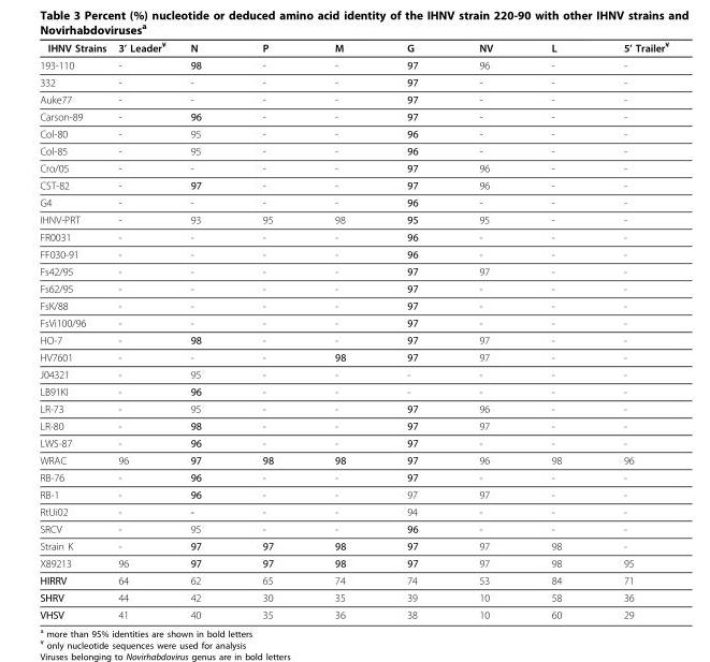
<table><thead><tr><td>IHNV Strains</td><td>3’ Leader<sup>¥</sup></td><td>N</td><td>P</td><td>M</td><td>G</td><td>NV</td><td>L</td><td>5’ Trailer<sup>¥</sup></td></tr></thead><tbody><tr><td>193-110</td><td>-</td><td>98</td><td>-</td><td>-</td><td>97</td><td>96</td><td>-</td><td>-</td></tr><tr><td>332</td><td>-</td><td>-</td><td>-</td><td>-</td><td>97</td><td>-</td><td>-</td><td>-</td></tr><tr><td>Auke77</td><td>-</td><td>-</td><td>-</td><td>-</td><td>97</td><td>-</td><td>-</td><td>-</td></tr><tr><td>Carson-89</td><td>-</td><td>96</td><td>-</td><td>-</td><td>97</td><td>-</td><td>-</td><td>-</td></tr><tr><td>Col-80</td><td>-</td><td>95</td><td>-</td><td>-</td><td>96</td><td>-</td><td>-</td><td>-</td></tr><tr><td>Col-85</td><td>-</td><td>95</td><td>-</td><td>-</td><td>96</td><td>-</td><td>-</td><td>-</td></tr><tr><td>Cro/05</td><td>-</td><td>-</td><td>-</td><td>-</td><td>97</td><td>96</td><td>-</td><td>-</td></tr><tr><td>CST-82</td><td>-</td><td>97</td><td>-</td><td>-</td><td>97</td><td>96</td><td>-</td><td>-</td></tr><tr><td>G4</td><td>-</td><td>-</td><td>-</td><td>-</td><td>96</td><td>-</td><td>-</td><td>-</td></tr><tr><td>IHNV-PRT</td><td>-</td><td>93</td><td>95</td><td>98</td><td>95</td><td>95</td><td>-</td><td>-</td></tr><tr><td>FR0031</td><td>-</td><td>-</td><td>-</td><td>-</td><td>96</td><td>-</td><td>-</td><td>-</td></tr><tr><td>FF030-91</td><td>-</td><td>-</td><td>-</td><td>-</td><td>96</td><td>-</td><td>-</td><td>-</td></tr><tr><td>Fs42/95</td><td>-</td><td>-</td><td>-</td><td>-</td><td>97</td><td>97</td><td>-</td><td>-</td></tr><tr><td>Fs62/95</td><td>-</td><td>-</td><td>-</td><td>-</td><td>97</td><td>-</td><td>-</td><td>-</td></tr><tr><td>FsK/88</td><td>-</td><td>-</td><td>-</td><td>-</td><td>97</td><td>-</td><td>-</td><td>-</td></tr><tr><td>FsVi100/96</td><td>-</td><td>-</td><td>-</td><td>-</td><td>97</td><td>-</td><td>-</td><td>-</td></tr><tr><td>HO-7</td><td>-</td><td>98</td><td>-</td><td>-</td><td>97</td><td>97</td><td>-</td><td>-</td></tr><tr><td>HV7601</td><td>-</td><td>-</td><td>-</td><td>98</td><td>97</td><td>97</td><td>-</td><td>-</td></tr><tr><td>J04321</td><td>-</td><td>95</td><td>-</td><td>-</td><td>-</td><td>-</td><td>-</td><td>-</td></tr><tr><td>LB91KI</td><td>-</td><td>96</td><td>-</td><td>-</td><td>-</td><td>-</td><td>-</td><td>-</td></tr><tr><td>LR-73</td><td>-</td><td>95</td><td>-</td><td>-</td><td>97</td><td>96</td><td>-</td><td>-</td></tr><tr><td>LR-80</td><td>-</td><td>98</td><td>-</td><td>-</td><td>97</td><td>97</td><td>-</td><td>-</td></tr><tr><td>LWS-87</td><td>-</td><td>96</td><td>-</td><td>-</td><td>97</td><td>-</td><td>-</td><td>-</td></tr><tr><td>WRAC</td><td>96</td><td>97</td><td>98</td><td>98</td><td>97</td><td>96</td><td>98</td><td>96</td></tr><tr><td>RB-76</td><td>-</td><td>96</td><td>-</td><td>-</td><td>97</td><td>-</td><td>-</td><td>-</td></tr><tr><td>RB-1</td><td>-</td><td>96</td><td>-</td><td>-</td><td>97</td><td>97</td><td>-</td><td>-</td></tr><tr><td>RtUi02</td><td>-</td><td>-</td><td>-</td><td>-</td><td>94</td><td>-</td><td>-</td><td>-</td></tr><tr><td>SRCV</td><td>-</td><td>95</td><td>-</td><td>-</td><td>96</td><td>-</td><td>-</td><td>-</td></tr><tr><td>Strain K</td><td>-</td><td>97</td><td>97</td><td>98</td><td>97</td><td>97</td><td>98</td><td>-</td></tr><tr><td>X89213</td><td>96</td><td>97</td><td>97</td><td>98</td><td>97</td><td>97</td><td>98</td><td>95</td></tr><tr><td>HIRRV</td><td>64</td><td>62</td><td>65</td><td>74</td><td>74</td><td>53</td><td>84</td><td>71</td></tr><tr><td>SHRV</td><td>44</td><td>42</td><td>30</td><td>35</td><td>39</td><td>10</td><td>58</td><td>36</td></tr><tr><td>VHSV</td><td>41</td><td>40</td><td>35</td><td>36</td><td>38</td><td>10</td><td>60</td><td>29</td></tr></tbody></table>